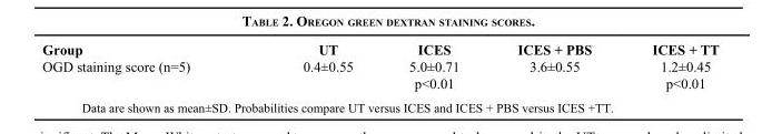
<table><thead><tr><td>Group</td><td>UT</td><td>ICES</td><td>ICES + PBS</td><td>ICES + TT</td></tr></thead><tbody><tr><td rowspan="2">OGD staining score (n=5)</td><td>0.4±0.55</td><td>5.0±0.71</td><td>3.6±0.55</td><td>1.2±0.45</td></tr><tr><td></td><td>p&lt;0.01</td><td></td><td>p&lt;0.01</td></tr></tbody></table>